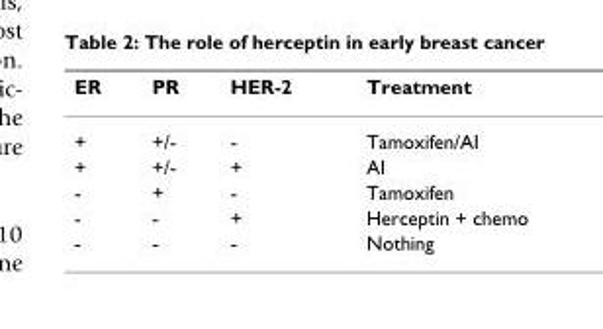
<table><thead><tr><td>ER</td><td>PR</td><td>HER-2</td><td>Treatment</td></tr></thead><tbody><tr><td>+</td><td>+/-</td><td>-</td><td>Tamoxifen/AI</td></tr><tr><td>+</td><td>+/-</td><td>+</td><td>AI</td></tr><tr><td>-</td><td>+</td><td>-</td><td>Tamoxifen</td></tr><tr><td>-</td><td>-</td><td>+</td><td>Herceptin + chemo</td></tr><tr><td>-</td><td>-</td><td>-</td><td>Nothing</td></tr></tbody></table>